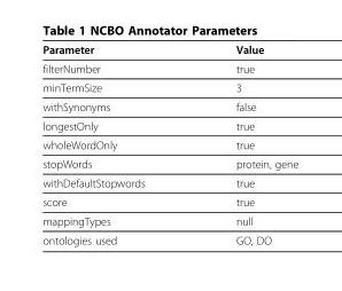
<table><thead><tr><td>Parameter</td><td>Value</td></tr></thead><tbody><tr><td>filterNumber</td><td>true</td></tr><tr><td>minTermSize</td><td>3</td></tr><tr><td>withSynonyms</td><td>false</td></tr><tr><td>longestOnly</td><td>true</td></tr><tr><td>wholeWordOnly</td><td>true</td></tr><tr><td>stopWords</td><td>protein, gene</td></tr><tr><td>withDefaultStopwords</td><td>true</td></tr><tr><td>score</td><td>true</td></tr><tr><td>mappingTypes</td><td>null</td></tr><tr><td>ontologies used</td><td>GO, DO</td></tr></tbody></table>